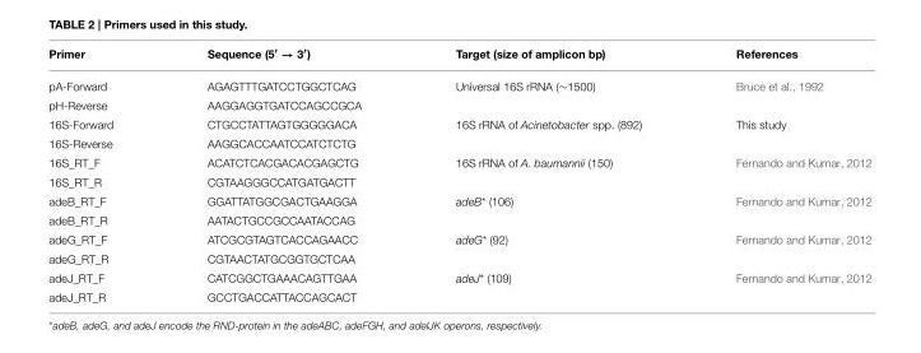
<table><thead><tr><td>Primer</td><td>Sequence (5′ → 3′)</td><td>Target (size of amplicon bp)</td><td>References</td></tr></thead><tbody><tr><td>pA-Forward</td><td>AGAGTTTGATCCTGGCTCAG</td><td>Universal 16S rRNA (∼1500)</td><td>Bruce et al., 1992</td></tr><tr><td>pH-Reverse</td><td>AAGGAGGTGATCCAGCCGCA</td><td></td><td></td></tr><tr><td>16S-Forward</td><td>CTGCCTATTAGTGGGGGACA</td><td>16S rRNA of Acinetobacter spp. (892)</td><td>This study</td></tr><tr><td>16S-Reverse</td><td>AAGGCACCAATCCATCTCTG</td><td></td><td></td></tr><tr><td>16S_RT_F</td><td>ACATCTCACGACACGAGCTG</td><td>16S rRNA of A. baumannii (150)</td><td>Fernando and Kumar, 2012</td></tr><tr><td>16S_RT_R</td><td>CGTAAGGGCCATGATGACTT</td><td></td><td></td></tr><tr><td>adeB_RT_F</td><td>GGATTATGGCGACTGAAGGA</td><td>adeB* (106)</td><td>Fernando and Kumar, 2012</td></tr><tr><td>adeB_RT_R</td><td>AATACTGCCGCCAATACCAG</td><td></td><td></td></tr><tr><td>adeG_RT_F</td><td>ATCGCGTAGTCACCAGAACC</td><td>adeG* (92)</td><td>Fernando and Kumar, 2012</td></tr><tr><td>adeG_RT_R</td><td>CGTAACTATGCGGTGCTCAA</td><td></td><td></td></tr><tr><td>adeJ_RT_F</td><td>CATCGGCTGAAACAGTTGAA</td><td>adeJ* (109)</td><td>Fernando and Kumar, 2012</td></tr><tr><td>adeJ_RT_R</td><td>GCCTGACCATTACCAGCACT</td><td></td><td></td></tr></tbody></table>